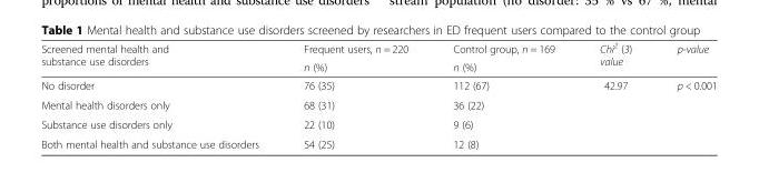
<table><thead><tr><td rowspan="2">Screened mental health and substance use disorders</td><td rowspan="2">Frequent users, n = 220 n (%)</td><td rowspan="2">Control group, n = 169 n (%)</td><td rowspan="2">Chi<sup>2</sup> (3) value</td><td rowspan="2">p-value</td></tr><tr></tr></thead><tbody><tr><td>No disorder</td><td>76 (35)</td><td>112 (67)</td><td rowspan="4">42.97</td><td rowspan="4">p &lt; 0.001</td></tr><tr><td>Mental health disorders only</td><td>68 (31)</td><td>36 (22)</td></tr><tr><td>Substance use disorders only</td><td>22 (10)</td><td>9 (6)</td></tr><tr><td>Both mental health and substance use disorders</td><td>54 (25)</td><td>12 (8)</td></tr></tbody></table>